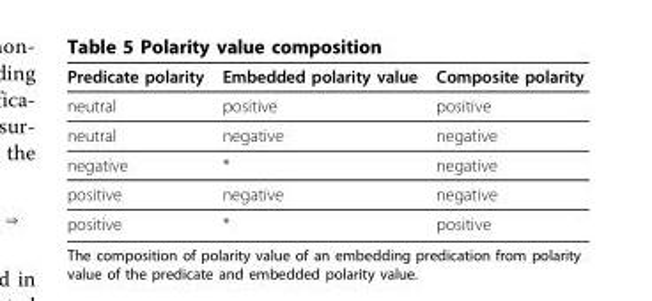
<table><thead><tr><td>Predicate polarity</td><td>Embedded polarity value</td><td>Composite polarity</td></tr></thead><tbody><tr><td>neutral</td><td>positive</td><td>positive</td></tr><tr><td>neutral</td><td>negative</td><td>negative</td></tr><tr><td>negative</td><td>*</td><td>negative</td></tr><tr><td>positive</td><td>negative</td><td>negative</td></tr><tr><td>positive</td><td>*</td><td>positive</td></tr></tbody></table>